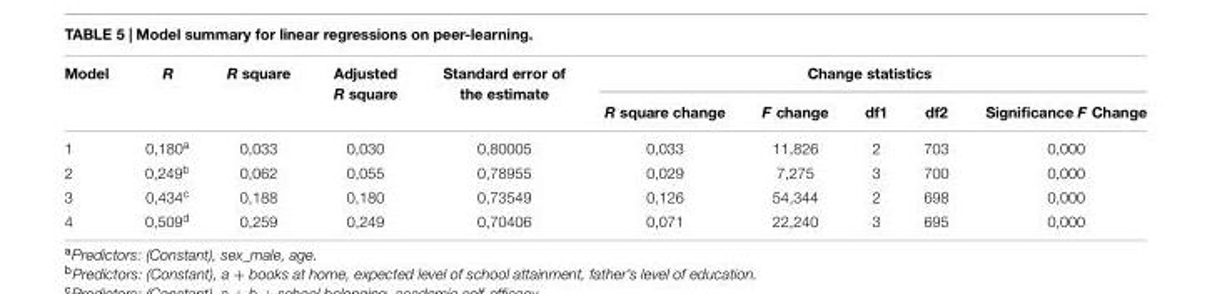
<table><thead><tr><td rowspan="2">Model</td><td rowspan="2">R</td><td rowspan="2">R square</td><td rowspan="2">Adjusted R square</td><td rowspan="2">Standard error of the estimate</td><td colspan="5">Change statistics</td></tr><tr><td>R square change</td><td>F change</td><td>df1</td><td>df2</td><td>Significance F Change</td></tr></thead><tbody><tr><td>1</td><td>0,180<sup>a</sup></td><td>0,033</td><td>0,030</td><td>0,80005</td><td>0,033</td><td>11,826</td><td>2</td><td>703</td><td>0,000</td></tr><tr><td>2</td><td>0,249<sup>b</sup></td><td>0,062</td><td>0,055</td><td>0,78955</td><td>0,029</td><td>7,275</td><td>3</td><td>700</td><td>0,000</td></tr><tr><td>3</td><td>0,434<sup>c</sup></td><td>0,188</td><td>0,180</td><td>0,73549</td><td>0,126</td><td>54,344</td><td>2</td><td>698</td><td>0,000</td></tr><tr><td>4</td><td>0,509<sup>d</sup></td><td>0,259</td><td>0,249</td><td>0,70406</td><td>0,071</td><td>22,240</td><td>3</td><td>695</td><td>0,000</td></tr></tbody></table>